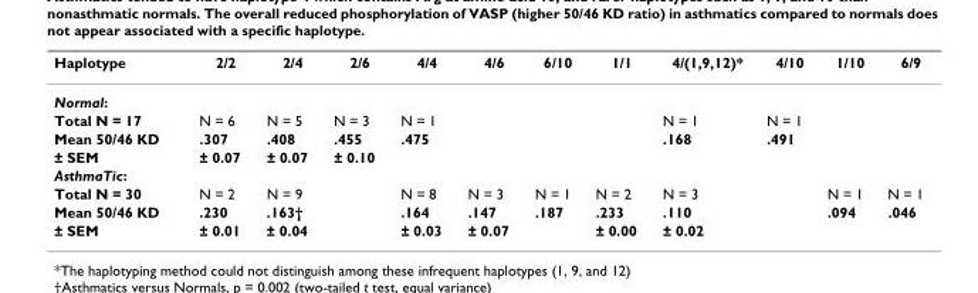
<table><thead><tr><td>Haplotype</td><td>2/2</td><td>2/4</td><td>2/6</td><td>4/4</td><td>4/6</td><td>6/10</td><td>1/1</td><td>4/(1,9,12)*</td><td>4/10</td><td>1/10</td><td>6/9</td></tr></thead><tbody><tr><td colspan="12">Normal:</td></tr><tr><td>Total N = 17</td><td>N = 6</td><td>N = 5</td><td>N = 3</td><td>N = 1</td><td></td><td></td><td></td><td>N = 1</td><td>N = 1</td><td></td><td></td></tr><tr><td>Mean 50/46 KD</td><td>.307</td><td>.408</td><td>.455</td><td>.475</td><td></td><td></td><td></td><td>.168</td><td>.491</td><td></td><td></td></tr><tr><td>± SEM</td><td>± 0.07</td><td>± 0.07</td><td>± 0.10</td><td></td><td></td><td></td><td></td><td></td><td></td><td></td><td></td></tr><tr><td colspan="12">AsthmaTic:</td></tr><tr><td>Total N = 30</td><td>N = 2</td><td>N = 9</td><td></td><td>N = 8</td><td>N = 3</td><td>N = 1</td><td>N = 2</td><td>N = 3</td><td></td><td>N = 1</td><td>N = 1</td></tr><tr><td>Mean 50/46 KD</td><td>.230</td><td>.163†</td><td></td><td>.164</td><td>.147</td><td>.187</td><td>.233</td><td>.110</td><td></td><td>.094</td><td>.046</td></tr><tr><td>± SEM</td><td>± 0.01</td><td>± 0.04</td><td></td><td>± 0.03</td><td>± 0.07</td><td></td><td>± 0.00</td><td>± 0.02</td><td></td><td></td><td></td></tr></tbody></table>